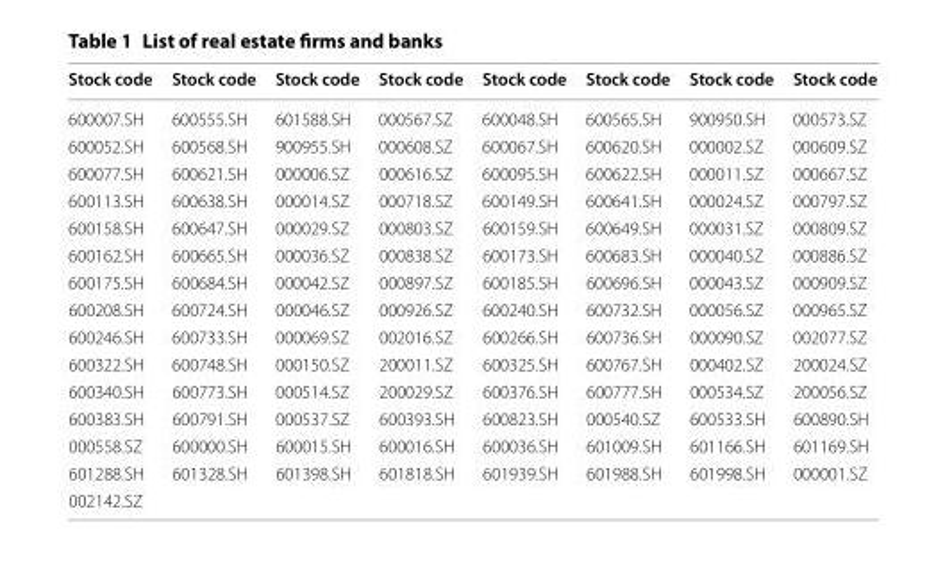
<table><thead><tr><td>Stock code</td><td>Stock code</td><td>Stock code</td><td>Stock code</td><td>Stock code</td><td>Stock code</td><td>Stock code</td><td>Stock code</td></tr></thead><tbody><tr><td>600007.SH</td><td>600555.SH</td><td>601588.SH</td><td>000567.SZ</td><td>600048.SH</td><td>600565.SH</td><td>900950.SH</td><td>000573.SZ</td></tr><tr><td>600052.SH</td><td>600568.SH</td><td>900955.SH</td><td>000608.SZ</td><td>600067.SH</td><td>600620.SH</td><td>000002.SZ</td><td>000609.SZ</td></tr><tr><td>600077.SH</td><td>600621.SH</td><td>000006.SZ</td><td>000616.SZ</td><td>600095.SH</td><td>600622.SH</td><td>000011.SZ</td><td>000667.SZ</td></tr><tr><td>600113.SH</td><td>600638.SH</td><td>000014.SZ</td><td>000718.SZ</td><td>600149.SH</td><td>600641.SH</td><td>000024.SZ</td><td>000797.SZ</td></tr><tr><td>600158.SH</td><td>600647.SH</td><td>000029.SZ</td><td>000803.SZ</td><td>600159.SH</td><td>600649.SH</td><td>000031.SZ</td><td>000809.SZ</td></tr><tr><td>600162.SH</td><td>600665.SH</td><td>000036.SZ</td><td>000838.SZ</td><td>600173.SH</td><td>600683.SH</td><td>000040.SZ</td><td>000886.SZ</td></tr><tr><td>600175.SH</td><td>600684.SH</td><td>000042.SZ</td><td>000897.SZ</td><td>600185.SH</td><td>600696.SH</td><td>000043.SZ</td><td>000909.SZ</td></tr><tr><td>600208.SH</td><td>600724.SH</td><td>000046.SZ</td><td>000926.SZ</td><td>600240.SH</td><td>600732.SH</td><td>000056.SZ</td><td>000965.SZ</td></tr><tr><td>600246.SH</td><td>600733.SH</td><td>000069.SZ</td><td>002016.SZ</td><td>600266.SH</td><td>600736.SH</td><td>000090.SZ</td><td>002077.SZ</td></tr><tr><td>600322.SH</td><td>600748.SH</td><td>000150.SZ</td><td>200011.SZ</td><td>600325.SH</td><td>600767.SH</td><td>000402.SZ</td><td>200024.SZ</td></tr><tr><td>600340.SH</td><td>600773.SH</td><td>000514.SZ</td><td>200029.SZ</td><td>600376.SH</td><td>600777.SH</td><td>000534.SZ</td><td>200056.SZ</td></tr><tr><td>600383.SH</td><td>600791.SH</td><td>000537.SZ</td><td>600393.SH</td><td>600823.SH</td><td>000540.SZ</td><td>600533.SH</td><td>600890.SH</td></tr><tr><td>000558.SZ</td><td>600000.SH</td><td>600015.SH</td><td>600016.SH</td><td>600036.SH</td><td>601009.SH</td><td>601166.SH</td><td>601169.SH</td></tr><tr><td>601288.SH</td><td>601328.SH</td><td>601398.SH</td><td>601818.SH</td><td>601939.SH</td><td>601988.SH</td><td>601998.SH</td><td>000001.SZ</td></tr><tr><td>002142.SZ</td><td></td><td></td><td></td><td></td><td></td><td></td><td></td></tr></tbody></table>